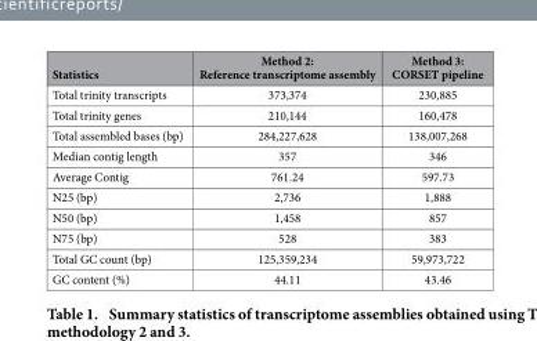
<table><thead><tr><td>Statistics</td><td>Method 2: Reference transcriptome assembly</td><td>Method 3: CORSET pipeline</td></tr></thead><tbody><tr><td>Total trinity transcripts</td><td>373,374</td><td>230,885</td></tr><tr><td>Total trinity genes</td><td>210,144</td><td>160,478</td></tr><tr><td>Total assembled bases (bp)</td><td>284,227,628</td><td>138,007,268</td></tr><tr><td>Median contig length</td><td>357</td><td>346</td></tr><tr><td>Average Contig</td><td>761.24</td><td>597.73</td></tr><tr><td>N25 (bp)</td><td>2,736</td><td>1,888</td></tr><tr><td>N50 (bp)</td><td>1,458</td><td>857</td></tr><tr><td>N75 (bp)</td><td>528</td><td>383</td></tr><tr><td>Total GC count (bp)</td><td>125,359,234</td><td>59,973,722</td></tr><tr><td>GC content (%)</td><td>44.11</td><td>43.46</td></tr></tbody></table>